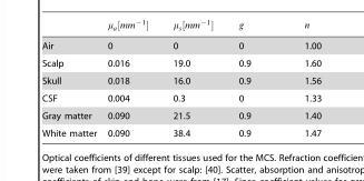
<table><tbody><tr><td>Air</td><td>0</td><td>0</td><td>0</td><td>1.00</td></tr><tr><td>Scalp</td><td>0.016</td><td>19.0</td><td>0.9</td><td>1.60</td></tr><tr><td>Skull</td><td>0.018</td><td>16.0</td><td>0.9</td><td>1.56</td></tr><tr><td>CSF</td><td>0.004</td><td>0.3</td><td>0</td><td>1.33</td></tr><tr><td>Gray matter</td><td>0.090</td><td>21.5</td><td>0.9</td><td>1.40</td></tr><tr><td>White matter</td><td>0.090</td><td>38.4</td><td>0.9</td><td>1.47</td></tr></tbody></table>